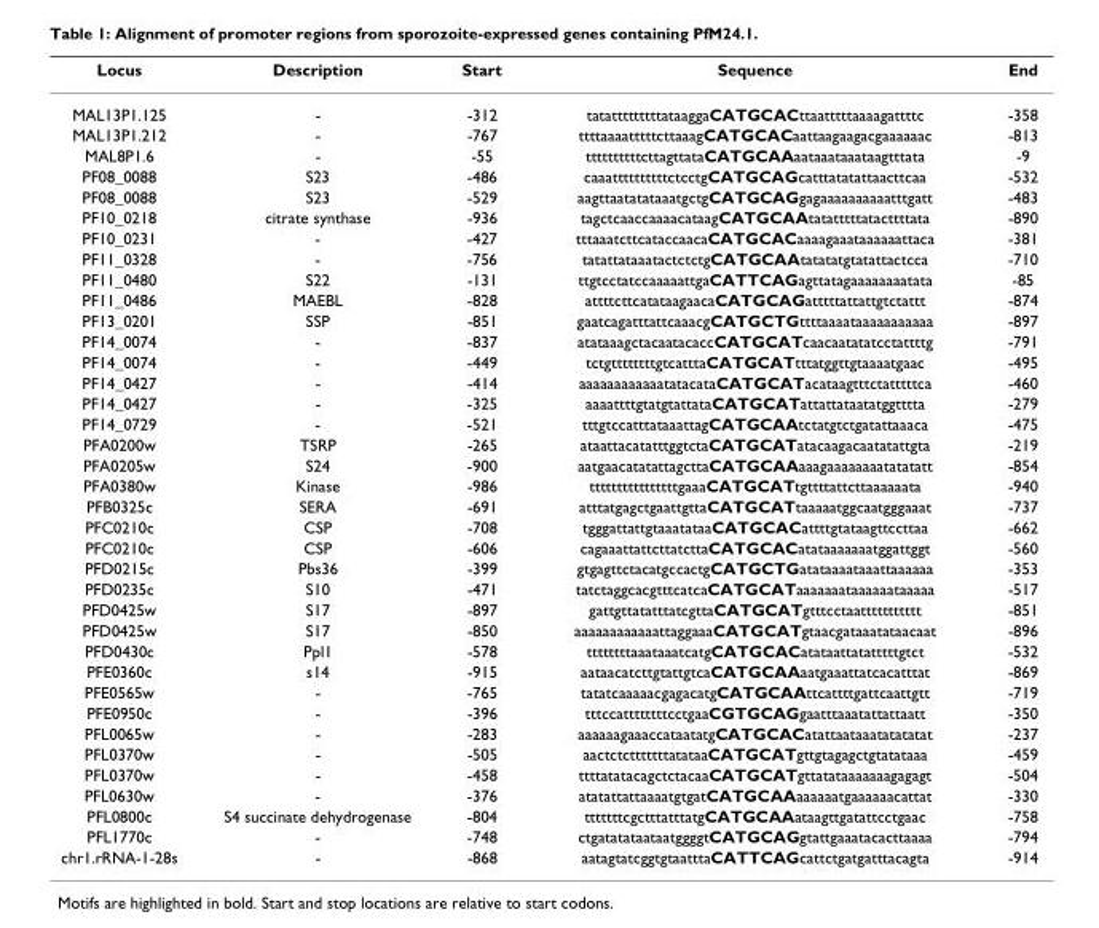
<table><thead><tr><td>Locus</td><td>Description</td><td>Start</td><td>Sequence</td><td>End</td></tr></thead><tbody><tr><td>MAL13P1.125</td><td>-</td><td>-312</td><td>tatatttttttttataaggaCATGCACttaatttttaaaagattttc</td><td>-358</td></tr><tr><td>MAL13P1.212</td><td>-</td><td>-767</td><td>ttttaaaatttttcttaaagCATGCACaattaagaagacgaaaaaac</td><td>-813</td></tr><tr><td>MAL8P1.6</td><td>-</td><td>-55</td><td>ttttttttttcttagttataCATGCAAaataaataaataagtttata</td><td>-9</td></tr><tr><td>PF08_0088</td><td>S23</td><td>-486</td><td>caaattttttttttctcctgCATGCAGcatttatatattaacttcaa</td><td>-532</td></tr><tr><td>PF08_0088</td><td>S23</td><td>-529</td><td>aagttaatatataaatgctgCATGCAGgagaaaaaaaaaatttgatt</td><td>-483</td></tr><tr><td>PF10_0218</td><td>citrate synthase</td><td>-936</td><td>tagctcaaccaaaacataagCATGCAAtatatttttatacttttata</td><td>-890</td></tr><tr><td>PF10_0231</td><td>-</td><td>-427</td><td>tttaaatcttcataccaacaCATGCACaaaagaaataaaaaattaca</td><td>-381</td></tr><tr><td>PF11_0328</td><td>-</td><td>-756</td><td>tatattataaatactctctgCATGCAAtatatatgtatattactcca</td><td>-710</td></tr><tr><td>PF11_0480</td><td>S22</td><td>-131</td><td>ttgtcctatccaaaaattgaCATTCAGagttatagaaaaaaaatata</td><td>-85</td></tr><tr><td>PF11_0486</td><td>MAEBL</td><td>-828</td><td>attttcttcatataagaacaCATGCAGatttttattattgtctattt</td><td>-874</td></tr><tr><td>PF13_0201</td><td>SSP</td><td>-851</td><td>gaatcagatttattcaaacgCATGCTGttttaaaataaaaaaaaaaa</td><td>-897</td></tr><tr><td>PF14_0074</td><td>-</td><td>-837</td><td>atataaagctacaatacaccCATGCATcaacaatatatcctattttg</td><td>-791</td></tr><tr><td>PF14_0074</td><td>-</td><td>-449</td><td>tctgttttttttgtcatttaCATGCATtttatggttgtaaaatgaac</td><td>-495</td></tr><tr><td>PF14_0427</td><td>-</td><td>-414</td><td>aaaaaaaaaaaatatacataCATGCATacataagtttctatttttca</td><td>-460</td></tr><tr><td>PF14_0427</td><td>-</td><td>-325</td><td>aaaattttgtatgtattataCATGCATattattataatatggtttta</td><td>-279</td></tr><tr><td>PF14_0729</td><td>-</td><td>-521</td><td>tttgtccatttataaattagCATGCAAtctatgtctgatattaaaca</td><td>-475</td></tr><tr><td>PFA0200w</td><td>TSRP</td><td>-265</td><td>ataattacatatttggtctaCATGCATatacaagacaatatattgta</td><td>-219</td></tr><tr><td>PFA0205w</td><td>S24</td><td>-900</td><td>aatgaacatatattagcttaCATGCAAaaagaaaaaaaatatatatt</td><td>-854</td></tr><tr><td>PFA0380w</td><td>Kinase</td><td>-986</td><td>ttttttttttttttttgaaaCATGCATtgttttattcttaaaaaata</td><td>-940</td></tr><tr><td>PFB0325c</td><td>SERA</td><td>-691</td><td>atttatgagctgaattgttaCATGCATtaaaaatggcaatgggaaat</td><td>-737</td></tr><tr><td>PFC0210c</td><td>CSP</td><td>-708</td><td>tgggattattgtaaatataaCATGCACattttgtataagttccttaa</td><td>-662</td></tr><tr><td>PFC0210c</td><td>CSP</td><td>-606</td><td>cagaaattattcttatcttaCATGCACatataaaaaaatggattggt</td><td>-560</td></tr><tr><td>PFD0215c</td><td>Pbs36</td><td>-399</td><td>gtgagttctacatgccactgCATGCTGatataaaataaattaaaaaa</td><td>-353</td></tr><tr><td>PFD0235c</td><td>S10</td><td>-471</td><td>tatctaggcacgtttcatcaCATGCATaaaaaaataaaaaataaaaa</td><td>-517</td></tr><tr><td>PFD0425w</td><td>S17</td><td>-897</td><td>gattgttatatttatcgttaCATGCATgtttcctaattttttttttt</td><td>-851</td></tr><tr><td>PFD0425w</td><td>S17</td><td>-850</td><td>aaaaaaaaaaaattaggaaaCATGCATgtaacgataaatataacaat</td><td>-896</td></tr><tr><td>PFD0430c</td><td>Ppl1</td><td>-578</td><td>ttttttttaaataaatcatgCATGCACatataattatatttttgtct</td><td>-532</td></tr><tr><td>PFE0360c</td><td>s14</td><td>-915</td><td>aataacatcttgtattgtcaCATGCAAaatgaaattatcacatttat</td><td>-869</td></tr><tr><td>PFE0565w</td><td>-</td><td>-765</td><td>tatatcaaaaacgagacatgCATGCAAttcattttgattcaattgtt</td><td>-719</td></tr><tr><td>PFE0950c</td><td>-</td><td>-396</td><td>tttccattttttttcctgaaCGTGCAGgaatttaaatattattaatt</td><td>-350</td></tr><tr><td>PFL0065w</td><td>-</td><td>-283</td><td>aaaaaagaaaccataatatgCATGCACatattaataaatatatatat</td><td>-237</td></tr><tr><td>PFL0370w</td><td>-</td><td>-505</td><td>aactctctttttttatataaCATGCATgttgtagagctgtatataaa</td><td>-459</td></tr><tr><td>PFL0370w</td><td>-</td><td>-458</td><td>ttttatatacagctctacaaCATGCATgttatataaaaaaagagagt</td><td>-504</td></tr><tr><td>PFL0630w</td><td>-</td><td>-376</td><td>atatattattaaaatgtgatCATGCAAaaaaaatgaaaaaacattat</td><td>-330</td></tr><tr><td>PFL0800c</td><td>S4 succinate dehydrogenase</td><td>-804</td><td>tttttttcgctttatttatgCATGCAAataagttgatattcctgaac</td><td>-758</td></tr><tr><td>PFL1770c</td><td>-</td><td>-748</td><td>ctgatatataataatggggtCATGCAGgtattgaaatacacttaaaa</td><td>-794</td></tr><tr><td>chr1.rRNA-1-28s</td><td>-</td><td>-868</td><td>aatagtatcggtgtaatttaCATTCAGcattctgatgatttacagta</td><td>-914</td></tr></tbody></table>